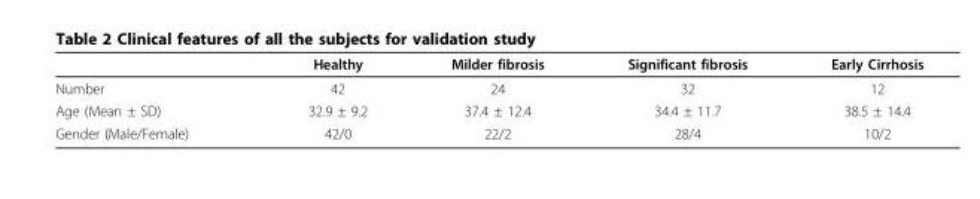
<table><thead><tr><td></td><td>Healthy</td><td>Milder fibrosis</td><td>Significant fibrosis</td><td>Early Cirrhosis</td></tr></thead><tbody><tr><td>Number</td><td>42</td><td>24</td><td>32</td><td>12</td></tr><tr><td>Age (Mean ± SD)</td><td>32.9 ± 9.2</td><td>37.4 ± 12.4</td><td>34.4 ± 11.7</td><td>38.5 ± 14.4</td></tr><tr><td>Gender (Male/Female)</td><td>42/0</td><td>22/2</td><td>28/4</td><td>10/2</td></tr></tbody></table>